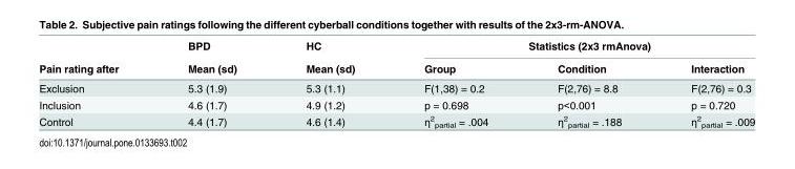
<table><thead><tr><td rowspan="2">Pain rating after</td><td rowspan="2">BPD Mean (sd)</td><td rowspan="2">HC Mean (sd)</td><td colspan="3">Statistics (2x3 rmAnova)</td></tr><tr><td>Group</td><td>Condition</td><td>Interaction</td></tr></thead><tbody><tr><td>Exclusion</td><td>5.3 (1.9)</td><td>5.3 (1.1)</td><td>F(1,38) = 0.2</td><td>F(2,76) = 8.8</td><td>F(2,76) = 0.3</td></tr><tr><td>Inclusion</td><td>4.6 (1.7)</td><td>4.9 (1.2)</td><td>p = 0.698</td><td>p&lt;0.001</td><td>p = 0.720</td></tr><tr><td>Control</td><td>4.4 (1.7)</td><td>4.6 (1.4)</td><td>η<sup>2</sup> <sub>partial</sub> = .004</td><td>η<sup>2</sup> <sub>partial</sub> = .188</td><td>η<sup>2</sup> <sub>partial</sub> = .009</td></tr></tbody></table>